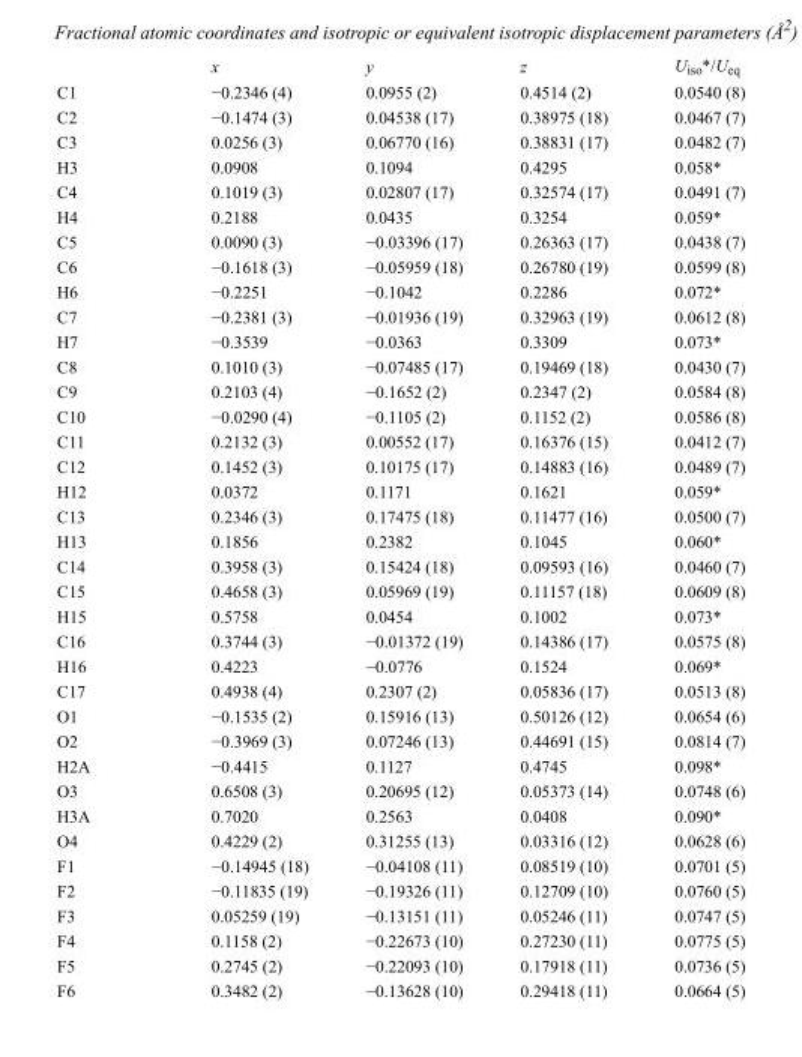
<table><thead><tr><td></td><td>x</td><td>y</td><td>z</td><td>U<sub>iso</sub>*/U<sub>eq</sub></td></tr></thead><tbody><tr><td>C1</td><td>−0.2346 (4)</td><td>0.0955 (2)</td><td>0.4514 (2)</td><td>0.0540 (8)</td></tr><tr><td>C2</td><td>−0.1474 (3)</td><td>0.04538 (17)</td><td>0.38975 (18)</td><td>0.0467 (7)</td></tr><tr><td>C3</td><td>0.0256 (3)</td><td>0.06770 (16)</td><td>0.38831 (17)</td><td>0.0482 (7)</td></tr><tr><td>H3</td><td>0.0908</td><td>0.1094</td><td>0.4295</td><td>0.058*</td></tr><tr><td>C4</td><td>0.1019 (3)</td><td>0.02807 (17)</td><td>0.32574 (17)</td><td>0.0491 (7)</td></tr><tr><td>H4</td><td>0.2188</td><td>0.0435</td><td>0.3254</td><td>0.059*</td></tr><tr><td>C5</td><td>0.0090 (3)</td><td>−0.03396 (17)</td><td>0.26363 (17)</td><td>0.0438 (7)</td></tr><tr><td>C6</td><td>−0.1618 (3)</td><td>−0.05959 (18)</td><td>0.26780 (19)</td><td>0.0599 (8)</td></tr><tr><td>H6</td><td>−0.2251</td><td>−0.1042</td><td>0.2286</td><td>0.072*</td></tr><tr><td>C7</td><td>−0.2381 (3)</td><td>−0.01936 (19)</td><td>0.32963 (19)</td><td>0.0612 (8)</td></tr><tr><td>H7</td><td>−0.3539</td><td>−0.0363</td><td>0.3309</td><td>0.073*</td></tr><tr><td>C8</td><td>0.1010 (3)</td><td>−0.07485 (17)</td><td>0.19469 (18)</td><td>0.0430 (7)</td></tr><tr><td>C9</td><td>0.2103 (4)</td><td>−0.1652 (2)</td><td>0.2347 (2)</td><td>0.0584 (8)</td></tr><tr><td>C10</td><td>−0.0290 (4)</td><td>−0.1105 (2)</td><td>0.1152 (2)</td><td>0.0586 (8)</td></tr><tr><td>C11</td><td>0.2132 (3)</td><td>0.00552 (17)</td><td>0.16376 (15)</td><td>0.0412 (7)</td></tr><tr><td>C12</td><td>0.1452 (3)</td><td>0.10175 (17)</td><td>0.14883 (16)</td><td>0.0489 (7)</td></tr><tr><td>H12</td><td>0.0372</td><td>0.1171</td><td>0.1621</td><td>0.059*</td></tr><tr><td>C13</td><td>0.2346 (3)</td><td>0.17475 (18)</td><td>0.11477 (16)</td><td>0.0500 (7)</td></tr><tr><td>H13</td><td>0.1856</td><td>0.2382</td><td>0.1045</td><td>0.060*</td></tr><tr><td>C14</td><td>0.3958 (3)</td><td>0.15424 (18)</td><td>0.09593 (16)</td><td>0.0460 (7)</td></tr><tr><td>C15</td><td>0.4658 (3)</td><td>0.05969 (19)</td><td>0.11157 (18)</td><td>0.0609 (8)</td></tr><tr><td>H15</td><td>0.5758</td><td>0.0454</td><td>0.1002</td><td>0.073*</td></tr><tr><td>C16</td><td>0.3744 (3)</td><td>−0.01372 (19)</td><td>0.14386 (17)</td><td>0.0575 (8)</td></tr><tr><td>H16</td><td>0.4223</td><td>−0.0776</td><td>0.1524</td><td>0.069*</td></tr><tr><td>C17</td><td>0.4938 (4)</td><td>0.2307 (2)</td><td>0.05836 (17)</td><td>0.0513 (8)</td></tr><tr><td>O1</td><td>−0.1535 (2)</td><td>0.15916 (13)</td><td>0.50126 (12)</td><td>0.0654 (6)</td></tr><tr><td>O2</td><td>−0.3969 (3)</td><td>0.07246 (13)</td><td>0.44691 (15)</td><td>0.0814 (7)</td></tr><tr><td>H2A</td><td>−0.4415</td><td>0.1127</td><td>0.4745</td><td>0.098*</td></tr><tr><td>O3</td><td>0.6508 (3)</td><td>0.20695 (12)</td><td>0.05373 (14)</td><td>0.0748 (6)</td></tr><tr><td>H3A</td><td>0.7020</td><td>0.2563</td><td>0.0408</td><td>0.090*</td></tr><tr><td>O4</td><td>0.4229 (2)</td><td>0.31255 (13)</td><td>0.03316 (12)</td><td>0.0628 (6)</td></tr><tr><td>F1</td><td>−0.14945 (18)</td><td>−0.04108 (11)</td><td>0.08519 (10)</td><td>0.0701 (5)</td></tr><tr><td>F2</td><td>−0.11835 (19)</td><td>−0.19326 (11)</td><td>0.12709 (10)</td><td>0.0760 (5)</td></tr><tr><td>F3</td><td>0.05259 (19)</td><td>−0.13151 (11)</td><td>0.05246 (11)</td><td>0.0747 (5)</td></tr><tr><td>F4</td><td>0.1158 (2)</td><td>−0.22673 (10)</td><td>0.27230 (11)</td><td>0.0775 (5)</td></tr><tr><td>F5</td><td>0.2745 (2)</td><td>−0.22093 (10)</td><td>0.17918 (11)</td><td>0.0736 (5)</td></tr><tr><td>F6</td><td>0.3482 (2)</td><td>−0.13628 (10)</td><td>0.29418 (11)</td><td>0.0664 (5)</td></tr></tbody></table>